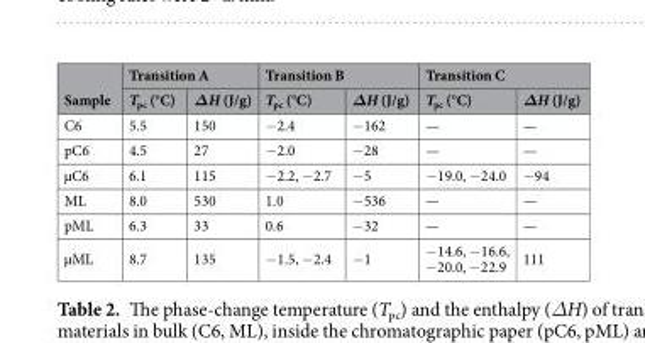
<table><thead><tr><td rowspan="2">Sample</td><td colspan="2">Transition A</td><td colspan="2">Transition B</td><td colspan="2">Transition C</td></tr><tr><td>T<sub>pc</sub> (°C)</td><td>ΔH (J/g)</td><td>T<sub>pc</sub> (°C)</td><td>ΔH (J/g)</td><td>T<sub>pc</sub> (°C)</td><td>ΔH (J/g)</td></tr></thead><tbody><tr><td>C6</td><td>5.5</td><td>150</td><td>−2.4</td><td>−162</td><td>—</td><td>—</td></tr><tr><td>pC6</td><td>4.5</td><td>27</td><td>−2.0</td><td>−28</td><td>—</td><td>—</td></tr><tr><td>µC6</td><td>6.1</td><td>115</td><td>−2.2, −2.7</td><td>−5</td><td>−19.0, −24.0</td><td>−94</td></tr><tr><td>ML</td><td>8.0</td><td>530</td><td>1.0</td><td>−536</td><td>—</td><td>—</td></tr><tr><td>pML</td><td>6.3</td><td>33</td><td>0.6</td><td>−32</td><td>—</td><td>—</td></tr><tr><td>µML</td><td>8.7</td><td>135</td><td>−1.5, −2.4</td><td>−1</td><td>−14.6, −16.6, −20.0, −22.9</td><td>111</td></tr></tbody></table>